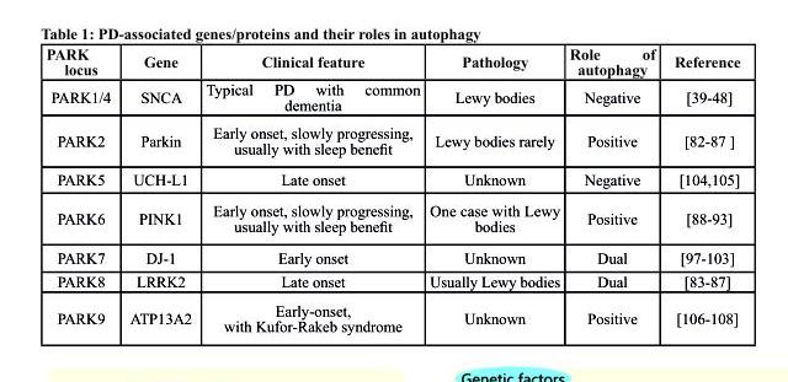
<table><thead><tr><td>pArk locus</td><td>gene</td><td>clinical feature</td><td>pathology</td><td>role of autophagy</td><td>reference</td></tr></thead><tbody><tr><td>PARK1/4</td><td>SNCA</td><td>Typical PD with common dementia</td><td>Lewy bodies</td><td>Negative</td><td>[39-48]</td></tr><tr><td>PARK2</td><td>Parkin</td><td>Early onset, slowly progressing, usually with sleep benefit</td><td>Lewy bodies rarely</td><td>Positive</td><td>[82-87 ]</td></tr><tr><td>PARK5</td><td>UCH-L1</td><td>Late onset</td><td>Unknown</td><td>Negative</td><td>[104,105]</td></tr><tr><td>PARK6</td><td>PINK1</td><td>Early onset, slowly progressing, usually with sleep benefit</td><td>One case with Lewy bodies</td><td>Positive</td><td>[88-93]</td></tr><tr><td>PARK7</td><td>DJ-1</td><td>Early onset</td><td>Unknown</td><td>Dual</td><td>[97-103]</td></tr><tr><td>PARK8</td><td>LRRK2</td><td>Late onset</td><td>Usually Lewy bodies</td><td>Dual</td><td>[83-87]</td></tr><tr><td>PARK9</td><td>ATP13A2</td><td>Early-onset, with Kufor-Rakeb syndrome</td><td>Unknown</td><td>Positive</td><td>[106-108]</td></tr></tbody></table>